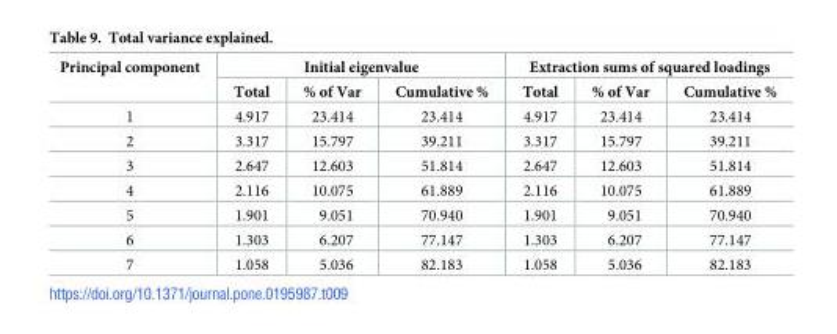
<table><thead><tr><td rowspan="2">Principal component</td><td colspan="3">Initial eigenvalue</td><td colspan="3">Extraction sums of squared loadings</td></tr><tr><td>Total</td><td>% of Var</td><td>Cumulative %</td><td>Total</td><td>% of Var</td><td>Cumulative %</td></tr></thead><tbody><tr><td>1</td><td>4.917</td><td>23.414</td><td>23.414</td><td>4.917</td><td>23.414</td><td>23.414</td></tr><tr><td>2</td><td>3.317</td><td>15.797</td><td>39.211</td><td>3.317</td><td>15.797</td><td>39.211</td></tr><tr><td>3</td><td>2.647</td><td>12.603</td><td>51.814</td><td>2.647</td><td>12.603</td><td>51.814</td></tr><tr><td>4</td><td>2.116</td><td>10.075</td><td>61.889</td><td>2.116</td><td>10.075</td><td>61.889</td></tr><tr><td>5</td><td>1.901</td><td>9.051</td><td>70.940</td><td>1.901</td><td>9.051</td><td>70.940</td></tr><tr><td>6</td><td>1.303</td><td>6.207</td><td>77.147</td><td>1.303</td><td>6.207</td><td>77.147</td></tr><tr><td>7</td><td>1.058</td><td>5.036</td><td>82.183</td><td>1.058</td><td>5.036</td><td>82.183</td></tr></tbody></table>